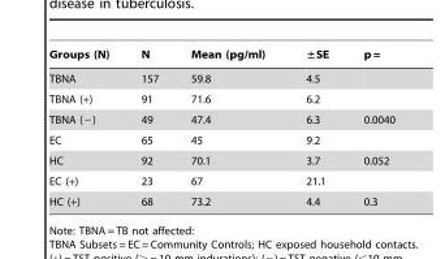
<table><thead><tr><td>Groups (N)</td><td>N</td><td>Mean (pg/ml)</td><td>±SE</td><td>p =</td></tr></thead><tbody><tr><td>TBNA</td><td>157</td><td>59.8</td><td>4.5</td><td></td></tr><tr><td>TBNA (+)</td><td>91</td><td>71.6</td><td>6.2</td><td></td></tr><tr><td>TBNA (−)</td><td>49</td><td>47.4</td><td>6.3</td><td>0.0040</td></tr><tr><td>EC</td><td>65</td><td>45</td><td>9.2</td><td></td></tr><tr><td>HC</td><td>92</td><td>70.1</td><td>3.7</td><td>0.052</td></tr><tr><td>EC (+)</td><td>23</td><td>67</td><td>21.1</td><td></td></tr><tr><td>HC (+)</td><td>68</td><td>73.2</td><td>4.4</td><td>0.3</td></tr></tbody></table>